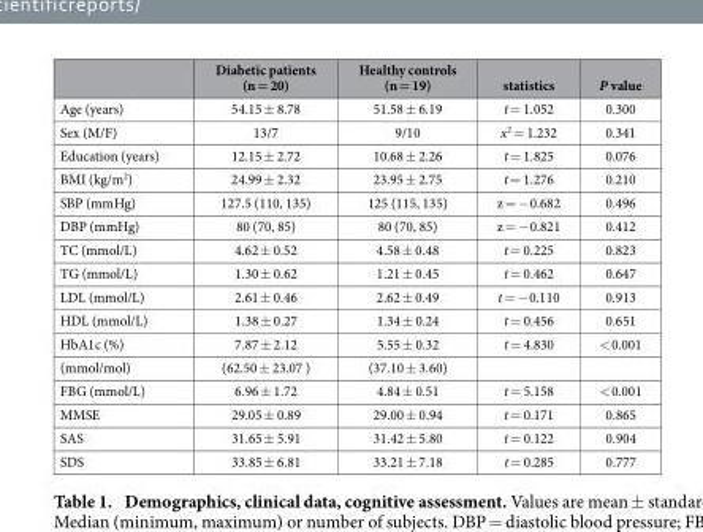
<table><thead><tr><td></td><td>Diabetic patients (n = 20)</td><td>Healthy controls (n = 19)</td><td>statistics</td><td>P value</td></tr></thead><tbody><tr><td>Age (years)</td><td>54.15 ± 8.78</td><td>51.58 ± 6.19</td><td>t = 1.052</td><td>0.300</td></tr><tr><td>Sex (M/F)</td><td>13/7</td><td>9/10</td><td>x<sup>2</sup> = 1.232</td><td>0.341</td></tr><tr><td>Education (years)</td><td>12.15 ± 2.72</td><td>10.68 ± 2.26</td><td>t = 1.825</td><td>0.076</td></tr><tr><td>BMI (kg/m<sup>2</sup>)</td><td>24.99 ± 2.32</td><td>23.95 ± 2.75</td><td>t = 1.276</td><td>0.210</td></tr><tr><td>SBP (mmHg)</td><td>127.5 (110, 135)</td><td>125 (115, 135)</td><td>z = − 0.682</td><td>0.496</td></tr><tr><td>DBP (mmHg)</td><td>80 (70, 85)</td><td>80 (70, 85)</td><td>z = − 0.821</td><td>0.412</td></tr><tr><td>TC (mmol/L)</td><td>4.62 ± 0.52</td><td>4.58 ± 0.48</td><td>t = 0.225</td><td>0.823</td></tr><tr><td>TG (mmol/L)</td><td>1.30 ± 0.62</td><td>1.21 ± 0.45</td><td>t = 0.462</td><td>0.647</td></tr><tr><td>LDL (mmol/L)</td><td>2.61 ± 0.46</td><td>2.62 ± 0.49</td><td>t = − 0.110</td><td>0.913</td></tr><tr><td>HDL (mmol/L)</td><td>1.38 ± 0.27</td><td>1.34 ± 0.24</td><td>t = 0.456</td><td>0.651</td></tr><tr><td>HbA1c (%)</td><td>7.87 ± 2.12</td><td>5.55 ± 0.32</td><td>t = 4.830</td><td>&lt; 0.001</td></tr><tr><td>(mmol/mol)</td><td>(62.50 ± 23.07 )</td><td>(37.10 ± 3.60)</td><td></td><td></td></tr><tr><td>FBG (mmol/L)</td><td>6.96 ± 1.72</td><td>4.84 ± 0.51</td><td>t = 5.158</td><td>&lt; 0.001</td></tr><tr><td>MMSE</td><td>29.05 ± 0.89</td><td>29.00 ± 0.94</td><td>t = 0.171</td><td>0.865</td></tr><tr><td>SAS</td><td>31.65 ± 5.91</td><td>31.42 ± 5.80</td><td>t = 0.122</td><td>0.904</td></tr><tr><td>SDS</td><td>33.85 ± 6.81</td><td>33.21 ± 7.18</td><td>t = 0.285</td><td>0.777</td></tr></tbody></table>